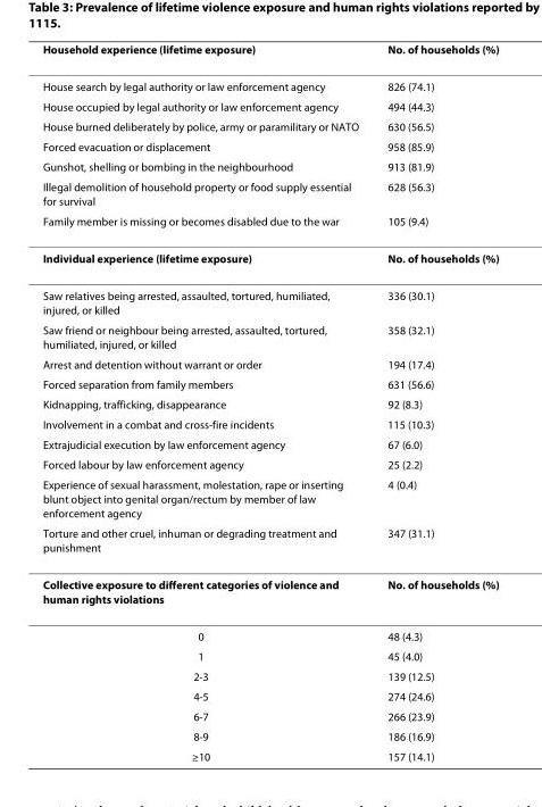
<table><thead><tr><td>Household experience (lifetime exposure)</td><td>No. of households (%)</td></tr></thead><tbody><tr><td>House search by legal authority or law enforcement agency</td><td>826 (74.1)</td></tr><tr><td>House occupied by legal authority or law enforcement agency</td><td>494 (44.3)</td></tr><tr><td>House burned deliberately by police, army or paramilitary or NATO</td><td>630 (56.5)</td></tr><tr><td>Forced evacuation or displacement</td><td>958 (85.9)</td></tr><tr><td>Gunshot, shelling or bombing in the neighbourhood</td><td>913 (81.9)</td></tr><tr><td>Illegal demolition of household property or food supply essential for survival</td><td>628 (56.3)</td></tr><tr><td>Family member is missing or becomes disabled due to the war</td><td>105 (9.4)</td></tr><tr><td>Individual experience (lifetime exposure)</td><td>No. of households (%)</td></tr><tr><td>Saw relatives being arrested, assaulted, tortured, humiliated, injured, or killed</td><td>336 (30.1)</td></tr><tr><td>Saw friend or neighbour being arrested, assaulted, tortured, humiliated, injured, or killed</td><td>358 (32.1)</td></tr><tr><td>Arrest and detention without warrant or order</td><td>194 (17.4)</td></tr><tr><td>Forced separation from family members</td><td>631 (56.6)</td></tr><tr><td>Kidnapping, trafficking, disappearance</td><td>92 (8.3)</td></tr><tr><td>Involvement in a combat and cross-fire incidents</td><td>115 (10.3)</td></tr><tr><td>Extrajudicial execution by law enforcement agency</td><td>67 (6.0)</td></tr><tr><td>Forced labour by law enforcement agency</td><td>25 (2.2)</td></tr><tr><td>Experience of sexual harassment, molestation, rape or inserting blunt object into genital organ/rectum by member of law enforcement agency</td><td>4 (0.4)</td></tr><tr><td>Torture and other cruel, inhuman or degrading treatment and punishment</td><td>347 (31.1)</td></tr><tr><td>Collective exposure to different categories of violence and human rights violations</td><td>No. of households (%)</td></tr><tr><td>0</td><td>48 (4.3)</td></tr><tr><td>1</td><td>45 (4.0)</td></tr><tr><td>2-3</td><td>139 (12.5)</td></tr><tr><td>4-5</td><td>274 (24.6)</td></tr><tr><td>6-7</td><td>266 (23.9)</td></tr><tr><td>8-9</td><td>186 (16.9)</td></tr><tr><td>≥10</td><td>157 (14.1)</td></tr></tbody></table>